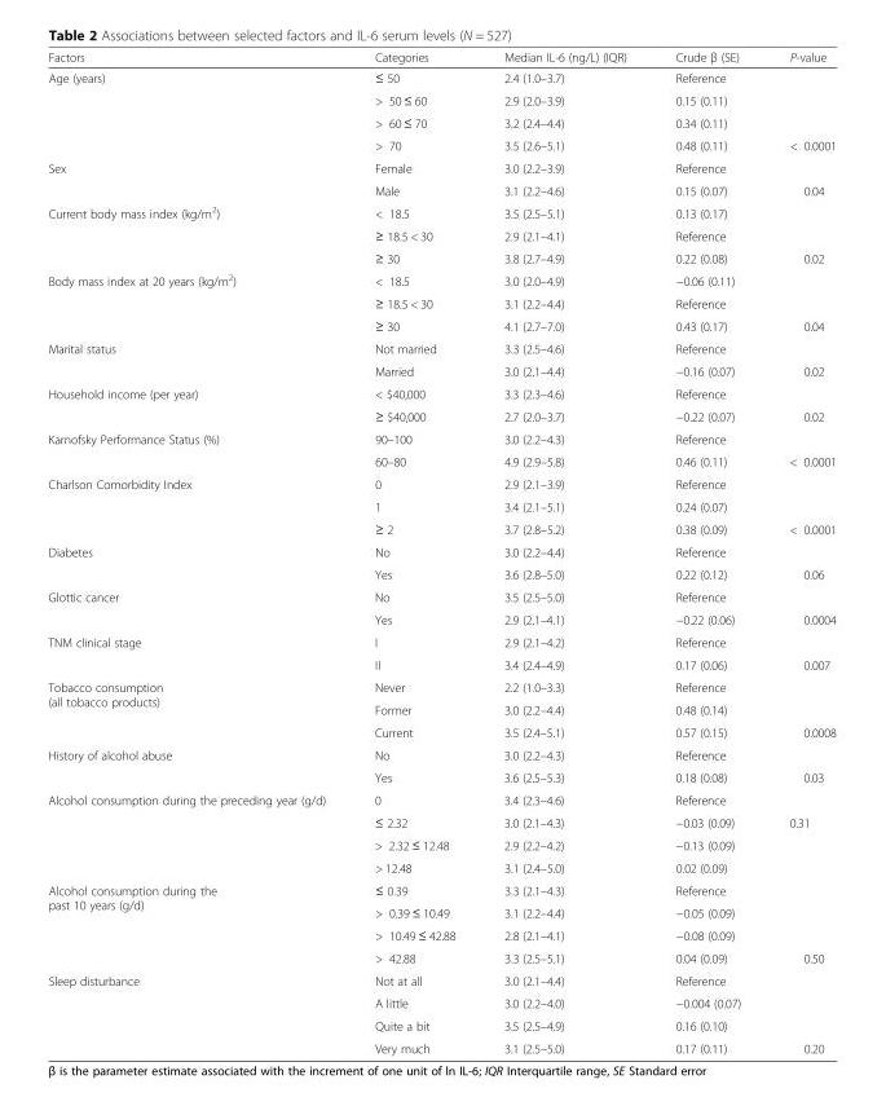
<table><thead><tr><td>Factors</td><td>Categories</td><td>Median IL-6 (ng/L) (IQR)</td><td>Crude β (SE)</td><td>P-value</td></tr></thead><tbody><tr><td rowspan="4">Age (years)</td><td>≤ 50</td><td>2.4 (1.0–3.7)</td><td>Reference</td><td></td></tr><tr><td>&gt; 50 ≤ 60</td><td>2.9 (2.0–3.9)</td><td>0.15 (0.11)</td><td></td></tr><tr><td>&gt; 60 ≤ 70</td><td>3.2 (2.4–4.4)</td><td>0.34 (0.11)</td><td></td></tr><tr><td>&gt; 70</td><td>3.5 (2.6–5.1)</td><td>0.48 (0.11)</td><td>&lt; 0.0001</td></tr><tr><td rowspan="2">Sex</td><td>Female</td><td>3.0 (2.2–3.9)</td><td>Reference</td><td></td></tr><tr><td>Male</td><td>3.1 (2.2–4.6)</td><td>0.15 (0.07)</td><td>0.04</td></tr><tr><td rowspan="3">Current body mass index (kg/m<sup>2</sup>)</td><td>&lt; 18.5</td><td>3.5 (2.5–5.1)</td><td>0.13 (0.17)</td><td></td></tr><tr><td>≥ 18.5 &lt; 30</td><td>2.9 (2.1–4.1)</td><td>Reference</td><td></td></tr><tr><td>≥ 30</td><td>3.8 (2.7–4.9)</td><td>0.22 (0.08)</td><td>0.02</td></tr><tr><td rowspan="3">Body mass index at 20 years (kg/m<sup>2</sup>)</td><td>&lt; 18.5</td><td>3.0 (2.0–4.9)</td><td>−0.06 (0.11)</td><td></td></tr><tr><td>≥ 18.5 &lt; 30</td><td>3.1 (2.2–4.4)</td><td>Reference</td><td></td></tr><tr><td>≥ 30</td><td>4.1 (2.7–7.0)</td><td>0.43 (0.17)</td><td>0.04</td></tr><tr><td rowspan="2">Marital status</td><td>Not married</td><td>3.3 (2.5–4.6)</td><td>Reference</td><td></td></tr><tr><td>Married</td><td>3.0 (2.1–4.4)</td><td>−0.16 (0.07)</td><td>0.02</td></tr><tr><td rowspan="2">Household income (per year)</td><td>&lt; $40,000</td><td>3.3 (2.3–4.6)</td><td>Reference</td><td></td></tr><tr><td>≥ $40,000</td><td>2.7 (2.0–3.7)</td><td>−0.22 (0.07)</td><td>0.02</td></tr><tr><td rowspan="2">Karnofsky Performance Status (%)</td><td>90–100</td><td>3.0 (2.2–4.3)</td><td>Reference</td><td></td></tr><tr><td>60–80</td><td>4.9 (2.9–5.8)</td><td>0.46 (0.11)</td><td>&lt; 0.0001</td></tr><tr><td rowspan="3">Charlson Comorbidity Index</td><td>0</td><td>2.9 (2.1–3.9)</td><td>Reference</td><td></td></tr><tr><td>1</td><td>3.4 (2.1–5.1)</td><td>0.24 (0.07)</td><td></td></tr><tr><td>≥ 2</td><td>3.7 (2.8–5.2)</td><td>0.38 (0.09)</td><td>&lt; 0.0001</td></tr><tr><td rowspan="2">Diabetes</td><td>No</td><td>3.0 (2.2–4.4)</td><td>Reference</td><td></td></tr><tr><td>Yes</td><td>3.6 (2.8–5.0)</td><td>0.22 (0.12)</td><td>0.06</td></tr><tr><td rowspan="2">Glottic cancer</td><td>No</td><td>3.5 (2.5–5.0)</td><td>Reference</td><td></td></tr><tr><td>Yes</td><td>2.9 (2.1–4.1)</td><td>−0.22 (0.06)</td><td>0.0004</td></tr><tr><td rowspan="2">TNM clinical stage</td><td>I</td><td>2.9 (2.1–4.2)</td><td>Reference</td><td></td></tr><tr><td>II</td><td>3.4 (2.4–4.9)</td><td>0.17 (0.06)</td><td>0.007</td></tr><tr><td rowspan="3">Tobacco consumption (all tobacco products)</td><td>Never</td><td>2.2 (1.0–3.3)</td><td>Reference</td><td></td></tr><tr><td>Former</td><td>3.0 (2.2–4.4)</td><td>0.48 (0.14)</td><td></td></tr><tr><td>Current</td><td>3.5 (2.4–5.1)</td><td>0.57 (0.15)</td><td>0.0008</td></tr><tr><td rowspan="2">History of alcohol abuse</td><td>No</td><td>3.0 (2.2–4.3)</td><td>Reference</td><td></td></tr><tr><td>Yes</td><td>3.6 (2.5–5.3)</td><td>0.18 (0.08)</td><td>0.03</td></tr><tr><td rowspan="4">Alcohol consumption during the preceding year (g/d)</td><td>0</td><td>3.4 (2.3–4.6)</td><td>Reference</td><td></td></tr><tr><td>≤ 2.32</td><td>3.0 (2.1–4.3)</td><td>−0.03 (0.09)</td><td>0.31</td></tr><tr><td>&gt; 2.32 ≤ 12.48</td><td>2.9 (2.2–4.2)</td><td>−0.13 (0.09)</td><td></td></tr><tr><td>&gt; 12.48</td><td>3.1 (2.4–5.0)</td><td>0.02 (0.09)</td><td></td></tr><tr><td rowspan="4">Alcohol consumption during the past 10 years (g/d)</td><td>≤ 0.39</td><td>3.3 (2.1–4.3)</td><td>Reference</td><td></td></tr><tr><td>&gt; 0.39 ≤ 10.49</td><td>3.1 (2.2–4.4)</td><td>−0.05 (0.09)</td><td></td></tr><tr><td>&gt; 10.49 ≤ 42.88</td><td>2.8 (2.1–4.1)</td><td>−0.08 (0.09)</td><td></td></tr><tr><td>&gt; 42.88</td><td>3.3 (2.5–5.1)</td><td>0.04 (0.09)</td><td>0.50</td></tr><tr><td rowspan="4">Sleep disturbance</td><td>Not at all</td><td>3.0 (2.1–4.4)</td><td>Reference</td><td></td></tr><tr><td>A little</td><td>3.0 (2.2–4.0)</td><td>−0.004 (0.07)</td><td></td></tr><tr><td>Quite a bit</td><td>3.5 (2.5–4.9)</td><td>0.16 (0.10)</td><td></td></tr><tr><td>Very much</td><td>3.1 (2.5–5.0)</td><td>0.17 (0.11)</td><td>0.20</td></tr></tbody></table>